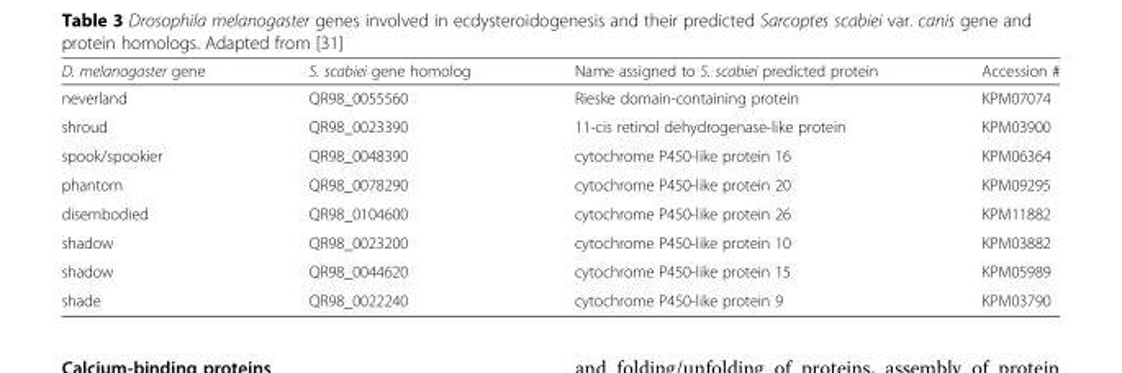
<table><thead><tr><td>D. melanogaster gene</td><td>S. scabiei gene homolog</td><td>Name assigned to S. scabiei predicted protein</td><td>Accession #</td></tr></thead><tbody><tr><td>neverland</td><td>QR98_0055560</td><td>Rieske domain-containing protein</td><td>KPM07074</td></tr><tr><td>shroud</td><td>QR98_0023390</td><td>11-cis retinol dehydrogenase-like protein</td><td>KPM03900</td></tr><tr><td>spook/spookier</td><td>QR98_0048390</td><td>cytochrome P450-like protein 16</td><td>KPM06364</td></tr><tr><td>phantom</td><td>QR98_0078290</td><td>cytochrome P450-like protein 20</td><td>KPM09295</td></tr><tr><td>disembodied</td><td>QR98_0104600</td><td>cytochrome P450-like protein 26</td><td>KPM11882</td></tr><tr><td>shadow</td><td>QR98_0023200</td><td>cytochrome P450-like protein 10</td><td>KPM03882</td></tr><tr><td>shadow</td><td>QR98_0044620</td><td>cytochrome P450-like protein 15</td><td>KPM05989</td></tr><tr><td>shade</td><td>QR98_0022240</td><td>cytochrome P450-like protein 9</td><td>KPM03790</td></tr></tbody></table>